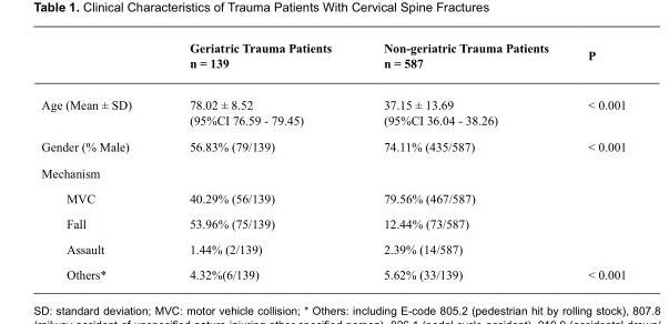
<table><thead><tr><td></td><td>Geriatric Trauma Patients n = 139</td><td>Non-geriatric Trauma Patients n = 587</td><td>P</td></tr></thead><tbody><tr><td rowspan="2">Age (Mean ± SD)</td><td>78.02 ± 8.52</td><td>37.15 ± 13.69</td><td rowspan="2">&lt; 0.001</td></tr><tr><td>(95%CI 76.59 - 79.45)</td><td>(95%CI 36.04 - 38.26)</td></tr><tr><td>Gender (% Male)</td><td>56.83% (79/139)</td><td>74.11% (435/587)</td><td>&lt; 0.001</td></tr><tr><td colspan="4">Mechanism</td></tr><tr><td>MVC</td><td>40.29% (56/139)</td><td>79.56% (467/587)</td><td></td></tr><tr><td>Fall</td><td>53.96% (75/139)</td><td>12.44% (73/587)</td><td></td></tr><tr><td>Assault</td><td>1.44% (2/139)</td><td>2.39% (14/587)</td><td></td></tr><tr><td>Others*</td><td>4.32%(6/139)</td><td>5.62% (33/139)</td><td>&lt; 0.001</td></tr></tbody></table>